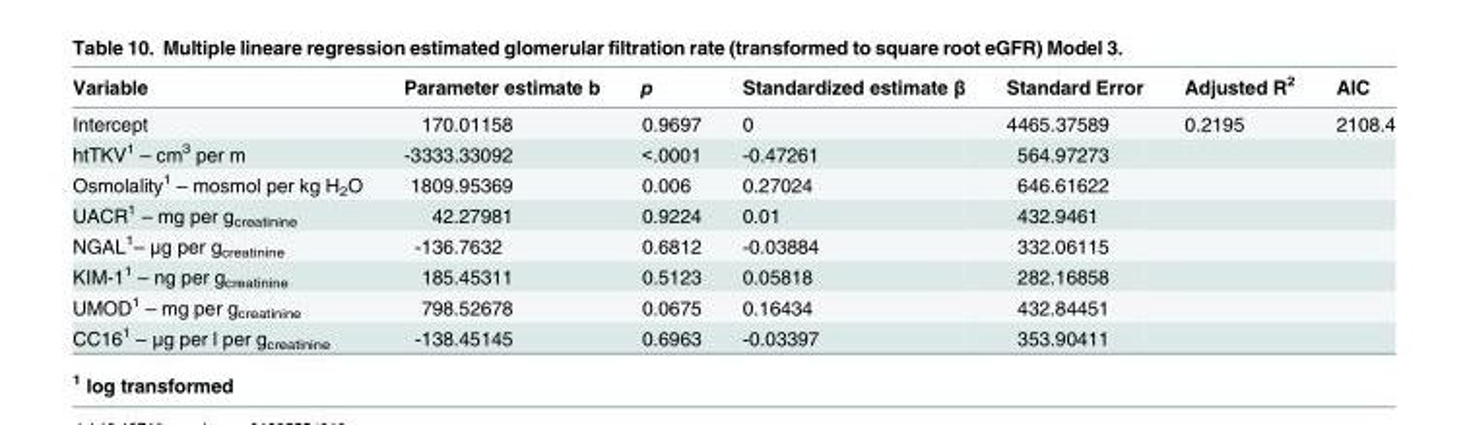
<table><thead><tr><td>Variable</td><td>Parameter estimate b</td><td>p</td><td>Standardized estimate β</td><td>Standard Error</td><td>Adjusted R<sup>2</sup></td><td>AIC</td></tr></thead><tbody><tr><td>Intercept</td><td>170.01158</td><td>0.9697</td><td>0</td><td>4465.37589</td><td>0.2195</td><td>2108.4</td></tr><tr><td>htTKV<sup>1</sup> – cm<sup>3</sup> per m</td><td>-3333.33092</td><td>&lt;.0001</td><td>-0.47261</td><td>564.97273</td><td></td><td></td></tr><tr><td>Osmolality<sup>1</sup> – mosmol per kg H<sub>2</sub>O</td><td>1809.95369</td><td>0.006</td><td>0.27024</td><td>646.61622</td><td></td><td></td></tr><tr><td>UACR<sup>1</sup> – mg per g<sub>creatinine</sub></td><td>42.27981</td><td>0.9224</td><td>0.01</td><td>432.9461</td><td></td><td></td></tr><tr><td>NGAL<sup>1</sup>– μg per g<sub>creatinine</sub></td><td>-136.7632</td><td>0.6812</td><td>-0.03884</td><td>332.06115</td><td></td><td></td></tr><tr><td>KIM-1<sup>1</sup> – ng per g<sub>creatinine</sub></td><td>185.45311</td><td>0.5123</td><td>0.05818</td><td>282.16858</td><td></td><td></td></tr><tr><td>UMOD<sup>1</sup> – mg per g<sub>creatinine</sub></td><td>798.52678</td><td>0.0675</td><td>0.16434</td><td>432.84451</td><td></td><td></td></tr><tr><td>CC16<sup>1</sup> – μg per l per g<sub>creatinine</sub></td><td>-138.45145</td><td>0.6963</td><td>-0.03397</td><td>353.90411</td><td></td><td></td></tr></tbody></table>